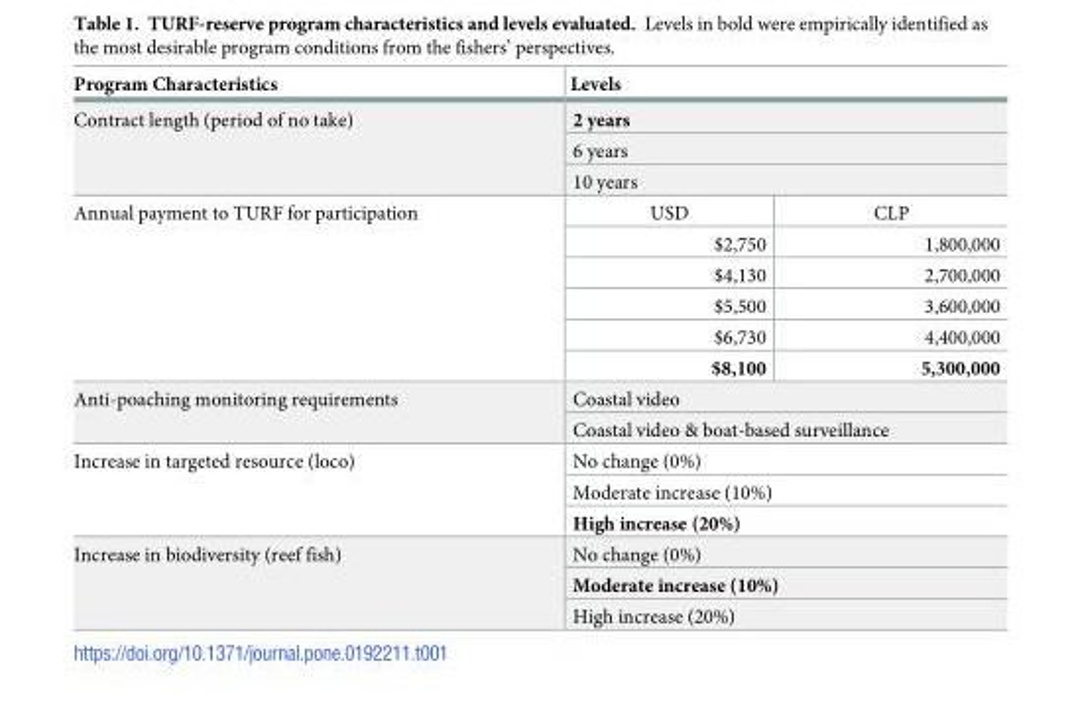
<table><thead><tr><td>Program Characteristics</td><td colspan="2">Levels</td></tr></thead><tbody><tr><td rowspan="3">Contract length (period of no take)</td><td colspan="2">2 years</td></tr><tr><td colspan="2">6 years</td></tr><tr><td colspan="2">10 years</td></tr><tr><td rowspan="6">Annual payment to TURF for participation</td><td>USD</td><td>CLP</td></tr><tr><td>$2,750</td><td>1,800,000</td></tr><tr><td>$4,130</td><td>2,700,000</td></tr><tr><td>$5,500</td><td>3,600,000</td></tr><tr><td>$6,730</td><td>4,400,000</td></tr><tr><td>$8,100</td><td>5,300,000</td></tr><tr><td rowspan="2">Anti-poaching monitoring requirements</td><td colspan="2">Coastal video</td></tr><tr><td colspan="2">Coastal video &amp; boat-based surveillance</td></tr><tr><td rowspan="3">Increase in targeted resource (loco)</td><td colspan="2">No change (0%)</td></tr><tr><td colspan="2">Moderate increase (10%)</td></tr><tr><td colspan="2">High increase (20%)</td></tr><tr><td rowspan="3">Increase in biodiversity (reef fish)</td><td colspan="2">No change (0%)</td></tr><tr><td colspan="2">Moderate increase (10%)</td></tr><tr><td colspan="2">High increase (20%)</td></tr></tbody></table>